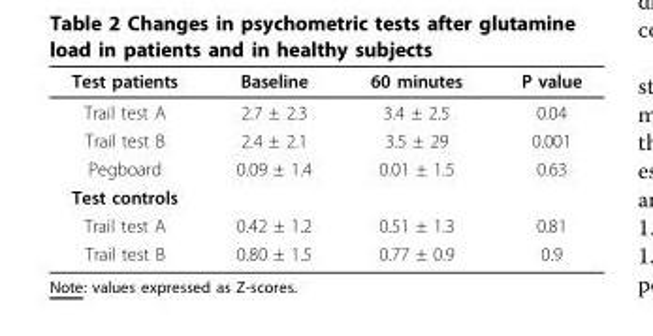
<table><thead><tr><td>Test patients</td><td>Baseline</td><td>60 minutes</td><td>P value</td></tr></thead><tbody><tr><td>Trail test A</td><td>2.7 ± 2.3</td><td>3.4 ± 2.5</td><td>0.04</td></tr><tr><td>Trail test B</td><td>2.4 ± 2.1</td><td>3.5 ± 29</td><td>0.001</td></tr><tr><td>Pegboard</td><td>0.09 ± 1.4</td><td>0.01 ± 1.5</td><td>0.63</td></tr><tr><td colspan="4">Test controls</td></tr><tr><td>Trail test A</td><td>0.42 ± 1.2</td><td>0.51 ± 1.3</td><td>0.81</td></tr><tr><td>Trail test B</td><td>0.80 ± 1.5</td><td>0.77 ± 0.9</td><td>0.9</td></tr></tbody></table>